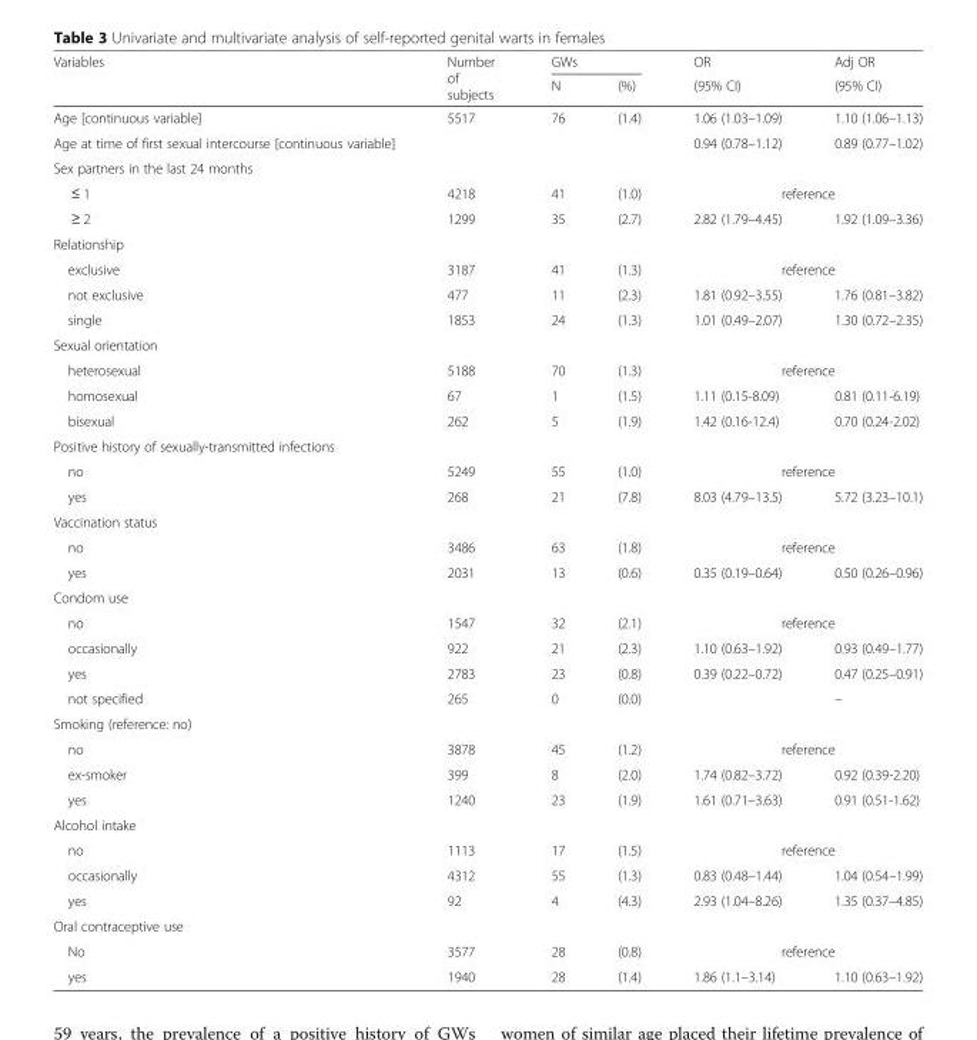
<table><thead><tr><td rowspan="2">Variables</td><td rowspan="2">Number of subjects</td><td colspan="2">GWs</td><td rowspan="2">OR (95% CI)</td><td rowspan="2">Adj OR (95% CI)</td></tr><tr><td>N</td><td>(%)</td></tr></thead><tbody><tr><td>Age [continuous variable]</td><td rowspan="2">5517</td><td rowspan="2">76</td><td rowspan="2">(1.4)</td><td>1.06 (1.03–1.09)</td><td>1.10 (1.06–1.13)</td></tr><tr><td>Age at time of first sexual intercourse [continuous variable]</td><td>0.94 (0.78–1.12)</td><td>0.89 (0.77–1.02)</td></tr><tr><td colspan="6">Sex partners in the last 24 months</td></tr><tr><td>≤ 1</td><td>4218</td><td>41</td><td>(1.0)</td><td colspan="2">reference</td></tr><tr><td>≥ 2</td><td>1299</td><td>35</td><td>(2.7)</td><td>2.82 (1.79–4.45)</td><td>1.92 (1.09–3.36)</td></tr><tr><td colspan="6">Relationship</td></tr><tr><td>exclusive</td><td>3187</td><td>41</td><td>(1.3)</td><td colspan="2">reference</td></tr><tr><td>not exclusive</td><td>477</td><td>11</td><td>(2.3)</td><td>1.81 (0.92–3.55)</td><td>1.76 (0.81–3.82)</td></tr><tr><td>single</td><td>1853</td><td>24</td><td>(1.3)</td><td>1.01 (0.49–2.07)</td><td>1.30 (0.72–2.35)</td></tr><tr><td colspan="6">Sexual orientation</td></tr><tr><td>heterosexual</td><td>5188</td><td>70</td><td>(1.3)</td><td colspan="2">reference</td></tr><tr><td>homosexual</td><td>67</td><td>1</td><td>(1.5)</td><td>1.11 (0.15-8.09)</td><td>0.81 (0.11-6.19)</td></tr><tr><td>bisexual</td><td>262</td><td>5</td><td>(1.9)</td><td>1.42 (0.16-12.4)</td><td>0.70 (0.24-2.02)</td></tr><tr><td colspan="6">Positive history of sexually-transmitted infections</td></tr><tr><td>no</td><td>5249</td><td>55</td><td>(1.0)</td><td colspan="2">reference</td></tr><tr><td>yes</td><td>268</td><td>21</td><td>(7.8)</td><td>8.03 (4.79–13.5)</td><td>5.72 (3.23–10.1)</td></tr><tr><td colspan="6">Vaccination status</td></tr><tr><td>no</td><td>3486</td><td>63</td><td>(1.8)</td><td colspan="2">reference</td></tr><tr><td>yes</td><td>2031</td><td>13</td><td>(0.6)</td><td>0.35 (0.19–0.64)</td><td>0.50 (0.26–0.96)</td></tr><tr><td colspan="6">Condom use</td></tr><tr><td>no</td><td>1547</td><td>32</td><td>(2.1)</td><td colspan="2">reference</td></tr><tr><td>occasionally</td><td>922</td><td>21</td><td>(2.3)</td><td>1.10 (0.63–1.92)</td><td>0.93 (0.49–1.77)</td></tr><tr><td>yes</td><td>2783</td><td>23</td><td>(0.8)</td><td>0.39 (0.22–0.72)</td><td>0.47 (0.25–0.91)</td></tr><tr><td>not specified</td><td>265</td><td>0</td><td>(0.0)</td><td></td><td>–</td></tr><tr><td colspan="6">Smoking (reference: no)</td></tr><tr><td>no</td><td>3878</td><td>45</td><td>(1.2)</td><td colspan="2">reference</td></tr><tr><td>ex-smoker</td><td>399</td><td>8</td><td>(2.0)</td><td>1.74 (0.82–3.72)</td><td>0.92 (0.39-2.20)</td></tr><tr><td>yes</td><td>1240</td><td>23</td><td>(1.9)</td><td>1.61 (0.71–3.63)</td><td>0.91 (0.51-1.62)</td></tr><tr><td colspan="6">Alcohol intake</td></tr><tr><td>no</td><td>1113</td><td>17</td><td>(1.5)</td><td colspan="2">reference</td></tr><tr><td>occasionally</td><td>4312</td><td>55</td><td>(1.3)</td><td>0.83 (0.48–1.44)</td><td>1.04 (0.54–1.99)</td></tr><tr><td>yes</td><td>92</td><td>4</td><td>(4.3)</td><td>2.93 (1.04–8.26)</td><td>1.35 (0.37–4.85)</td></tr><tr><td colspan="6">Oral contraceptive use</td></tr><tr><td>No</td><td>3577</td><td>28</td><td>(0.8)</td><td colspan="2">reference</td></tr><tr><td>yes</td><td>1940</td><td>28</td><td>(1.4)</td><td>1.86 (1.1–3.14)</td><td>1.10 (0.63–1.92)</td></tr></tbody></table>